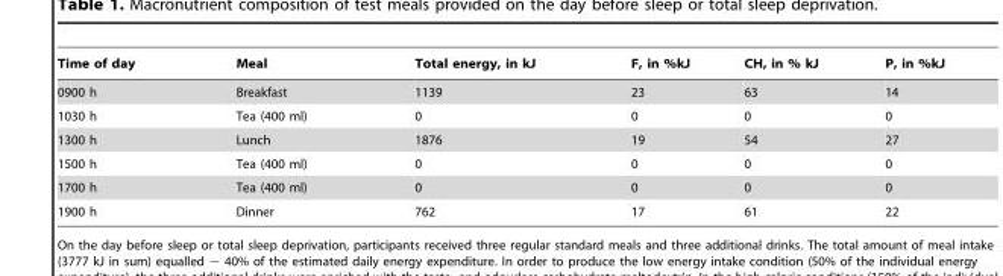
<table><thead><tr><td>Time of day</td><td>Meal</td><td>Total energy, in kJ</td><td>F, in %kJ</td><td>CH, in % kJ</td><td>P, in %kJ</td></tr></thead><tbody><tr><td>0900 h</td><td>Breakfast</td><td>1139</td><td>23</td><td>63</td><td>14</td></tr><tr><td>1030 h</td><td>Tea (400 ml)</td><td>0</td><td>0</td><td>0</td><td>0</td></tr><tr><td>1300 h</td><td>Lunch</td><td>1876</td><td>19</td><td>54</td><td>27</td></tr><tr><td>1500 h</td><td>Tea (400 ml)</td><td>0</td><td>0</td><td>0</td><td>0</td></tr><tr><td>1700 h</td><td>Tea (400 ml)</td><td>0</td><td>0</td><td>0</td><td>0</td></tr><tr><td>1900 h</td><td>Dinner</td><td>762</td><td>17</td><td>61</td><td>22</td></tr></tbody></table>